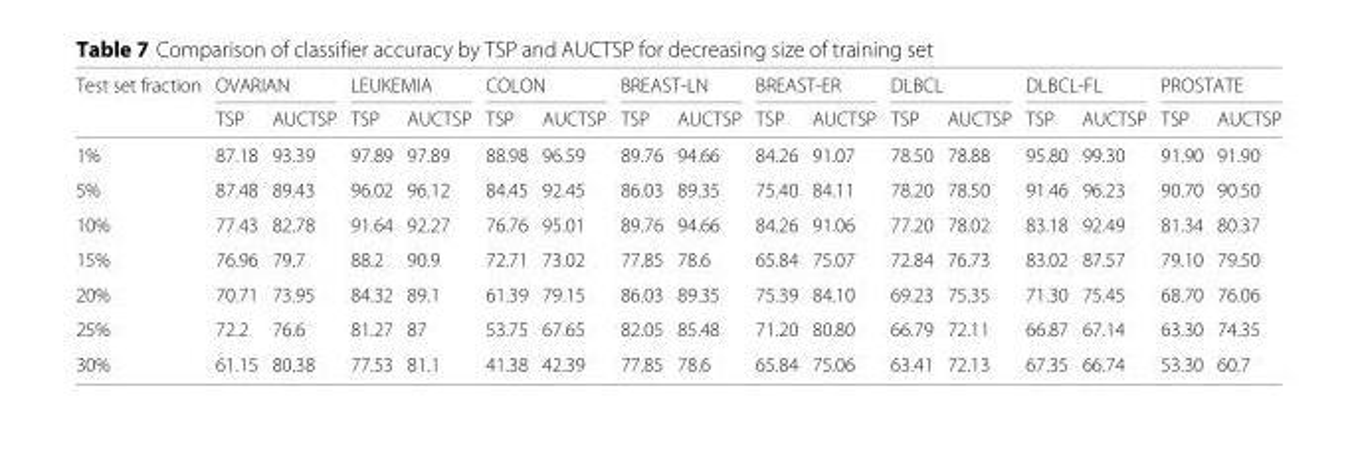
<table><thead><tr><td rowspan="2">Test set fraction</td><td colspan="2">OVARIAN</td><td colspan="2">LEUKEMIA</td><td colspan="2">COLON</td><td colspan="2">BREAST-LN</td><td colspan="2">BREAST-ER</td><td colspan="2">DLBCL</td><td colspan="2">DLBCL-FL</td><td colspan="2">PROSTATE</td></tr><tr><td>TSP</td><td>AUCTSP</td><td>TSP</td><td>AUCTSP</td><td>TSP</td><td>AUCTSP</td><td>TSP</td><td>AUCTSP</td><td>TSP</td><td>AUCTSP</td><td>TSP</td><td>AUCTSP</td><td>TSP</td><td>AUCTSP</td><td>TSP</td><td>AUCTSP</td></tr></thead><tbody><tr><td>1%</td><td>87.18</td><td>93.39</td><td>97.89</td><td>97.89</td><td>88.98</td><td>96.59</td><td>89.76</td><td>94.66</td><td>84.26</td><td>91.07</td><td>78.50</td><td>78.88</td><td>95.80</td><td>99.30</td><td>91.90</td><td>91.90</td></tr><tr><td>5%</td><td>87.48</td><td>89.43</td><td>96.02</td><td>96.12</td><td>84.45</td><td>92.45</td><td>86.03</td><td>89.35</td><td>75.40</td><td>84.11</td><td>78.20</td><td>78.50</td><td>91.46</td><td>96.23</td><td>90.70</td><td>90.50</td></tr><tr><td>10%</td><td>77.43</td><td>82.78</td><td>91.64</td><td>92.27</td><td>76.76</td><td>95.01</td><td>89.76</td><td>94.66</td><td>84.26</td><td>91.06</td><td>77.20</td><td>78.02</td><td>83.18</td><td>92.49</td><td>81.34</td><td>80.37</td></tr><tr><td>15%</td><td>76.96</td><td>79.7</td><td>88.2</td><td>90.9</td><td>72.71</td><td>73.02</td><td>77.85</td><td>78.6</td><td>65.84</td><td>75.07</td><td>72.84</td><td>76.73</td><td>83.02</td><td>87.57</td><td>79.10</td><td>79.50</td></tr><tr><td>20%</td><td>70.71</td><td>73.95</td><td>84.32</td><td>89.1</td><td>61.39</td><td>79.15</td><td>86.03</td><td>89.35</td><td>75.39</td><td>84.10</td><td>69.23</td><td>75.35</td><td>71.30</td><td>75.45</td><td>68.70</td><td>76.06</td></tr><tr><td>25%</td><td>72.2</td><td>76.6</td><td>81.27</td><td>87</td><td>53.75</td><td>67.65</td><td>82.05</td><td>85.48</td><td>71.20</td><td>80.80</td><td>66.79</td><td>72.11</td><td>66.87</td><td>67.14</td><td>63.30</td><td>74.35</td></tr><tr><td>30%</td><td>61.15</td><td>80.38</td><td>77.53</td><td>81.1</td><td>41.38</td><td>42.39</td><td>77.85</td><td>78.6</td><td>65.84</td><td>75.06</td><td>63.41</td><td>72.13</td><td>67.35</td><td>66.74</td><td>53.30</td><td>60.7</td></tr></tbody></table>